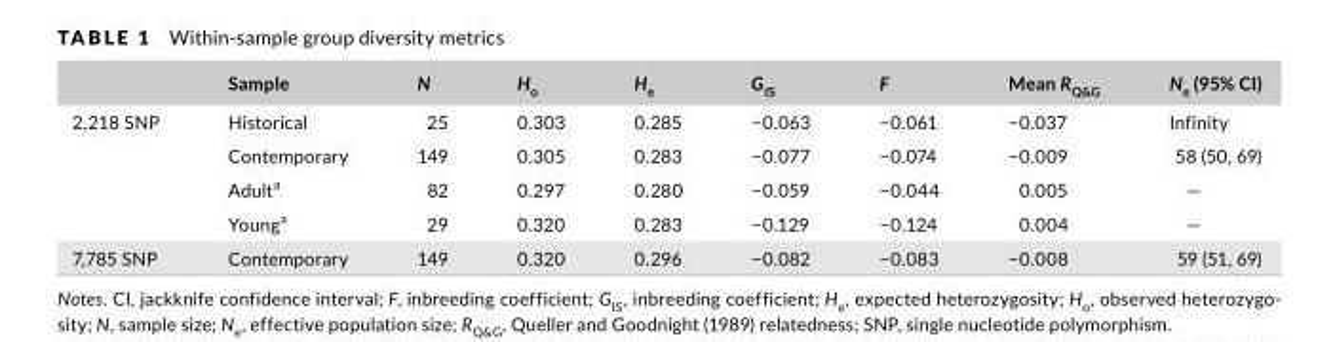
<table><thead><tr><td></td><td>Sample</td><td>N</td><td>H<sub>o</sub></td><td>H<sub>e</sub></td><td>G<sub>IS</sub></td><td>F</td><td>Mean R<sub>Q&amp;G</sub></td><td>N<sub>e</sub> (95% CI)</td></tr></thead><tbody><tr><td rowspan="4">2,218 SNP</td><td>Historical</td><td>25</td><td>0.303</td><td>0.285</td><td>−0.063</td><td>−0.061</td><td>−0.037</td><td>Infinity</td></tr><tr><td>Contemporary</td><td>149</td><td>0.305</td><td>0.283</td><td>−0.077</td><td>−0.074</td><td>−0.009</td><td>58 (50, 69)</td></tr><tr><td>Adult<sup>a</sup></td><td>82</td><td>0.297</td><td>0.280</td><td>−0.059</td><td>−0.044</td><td>0.005</td><td>—</td></tr><tr><td>Young<sup>a</sup></td><td>29</td><td>0.320</td><td>0.283</td><td>−0.129</td><td>−0.124</td><td>0.004</td><td>—</td></tr><tr><td>7,785 SNP</td><td>Contemporary</td><td>149</td><td>0.320</td><td>0.296</td><td>−0.082</td><td>−0.083</td><td>−0.008</td><td>59 (51, 69)</td></tr></tbody></table>